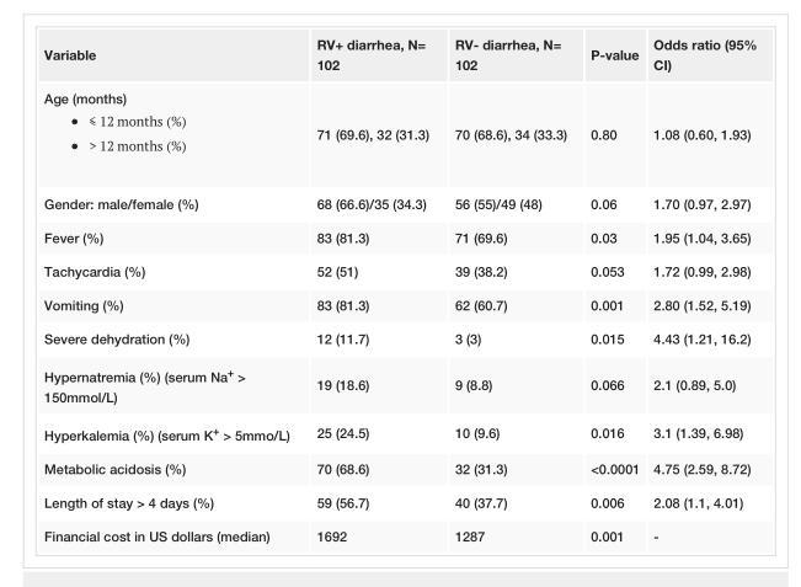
<table><tbody><tr><td>Variable</td><td>RV+ diarrhea, N= 102</td><td>RV- diarrhea, N= 102</td><td>P-value</td><td>Odds ratio (95% CI)</td></tr><tr><td>Age (months) ≤ 12 months (%) &gt; 12 months (%)</td><td>71 (69.6), 32 (31.3)</td><td>70 (68.6), 34 (33.3)</td><td>0.80</td><td>1.08 (0.60, 1.93)</td></tr><tr><td>Gender: male/female (%)</td><td>68 (66.6)/35 (34.3)</td><td>56 (55)/49 (48)</td><td>0.06</td><td>1.70 (0.97, 2.97)</td></tr><tr><td>Fever (%)</td><td>83 (81.3)</td><td>71 (69.6)</td><td>0.03</td><td>1.95 (1.04, 3.65)</td></tr><tr><td>Tachycardia (%)</td><td>52 (51)</td><td>39 (38.2)</td><td>0.053</td><td>1.72 (0.99, 2.98)</td></tr><tr><td>Vomiting (%)</td><td>83 (81.3)</td><td>62 (60.7)</td><td>0.001</td><td>2.80 (1.52, 5.19)</td></tr><tr><td>Severe dehydration (%)</td><td>12 (11.7)</td><td>3 (3)</td><td>0.015</td><td>4.43 (1.21, 16.2)</td></tr><tr><td>Hypernatremia (%) (serum Na<sup>+</sup> &gt; 150mmol/L)</td><td>19 (18.6)</td><td>9 (8.8)</td><td>0.066</td><td>2.1 (0.89, 5.0)</td></tr><tr><td>Hyperkalemia (%) (serum K<sup>+</sup> &gt; 5mmo/L)</td><td>25 (24.5)</td><td>10 (9.6)</td><td>0.016</td><td>3.1 (1.39, 6.98)</td></tr><tr><td>Metabolic acidosis (%)</td><td>70 (68.6)</td><td>32 (31.3)</td><td>&lt;0.0001</td><td>4.75 (2.59, 8.72)</td></tr><tr><td>Length of stay &gt; 4 days (%)</td><td>59 (56.7)</td><td>40 (37.7)</td><td>0.006</td><td>2.08 (1.1, 4.01)</td></tr><tr><td>Financial cost in US dollars (median)</td><td>1692</td><td>1287</td><td>0.001</td><td>-</td></tr></tbody></table>